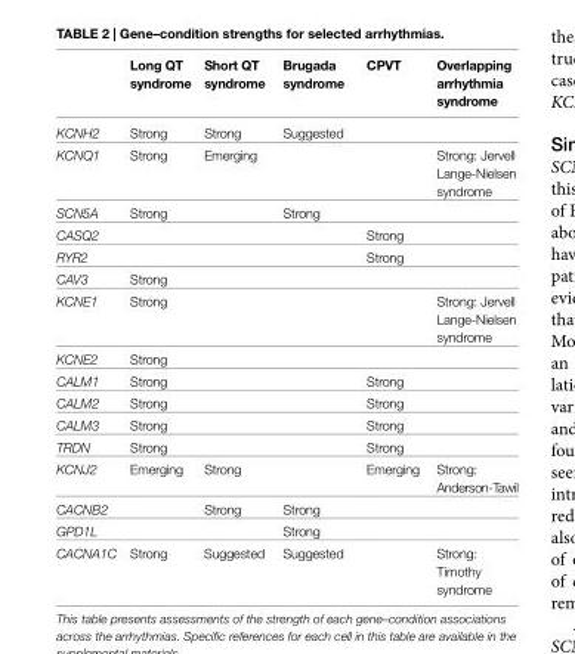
<table><thead><tr><td></td><td>long QT syndrome</td><td>short QT syndrome</td><td>Brugada syndrome</td><td>cPVT</td><td>Overlapping arrhythmia syndrome</td></tr></thead><tbody><tr><td>KCNH2</td><td>Strong</td><td>Strong</td><td>Suggested</td><td></td><td></td></tr><tr><td>KCNQ1</td><td>Strong</td><td>Emerging</td><td></td><td></td><td>Strong: Jervell Lange-Nielsen syndrome</td></tr><tr><td>SCN5A</td><td>Strong</td><td></td><td>Strong</td><td></td><td></td></tr><tr><td>CASQ2</td><td></td><td></td><td></td><td>Strong</td><td></td></tr><tr><td>RYR2</td><td></td><td></td><td></td><td>Strong</td><td></td></tr><tr><td>CAV3</td><td>Strong</td><td></td><td></td><td></td><td></td></tr><tr><td>KCNE1</td><td>Strong</td><td></td><td></td><td></td><td>Strong: Jervell Lange-Nielsen syndrome</td></tr><tr><td>KCNE2</td><td>Strong</td><td></td><td></td><td></td><td></td></tr><tr><td>CALM1</td><td>Strong</td><td></td><td></td><td>Strong</td><td></td></tr><tr><td>CALM2</td><td>Strong</td><td></td><td></td><td>Strong</td><td></td></tr><tr><td>CALM3</td><td>Strong</td><td></td><td></td><td>Strong</td><td></td></tr><tr><td>TRDN</td><td>Strong</td><td></td><td></td><td>Strong</td><td></td></tr><tr><td>KCNJ2</td><td>Emerging</td><td>Strong</td><td></td><td>Emerging</td><td>Strong: Anderson-Tawil</td></tr><tr><td>CACNB2</td><td></td><td>Strong</td><td>Strong</td><td></td><td></td></tr><tr><td>GPD1L</td><td></td><td></td><td>Strong</td><td></td><td></td></tr><tr><td>CACNA1C</td><td>Strong</td><td>Suggested</td><td>Suggested</td><td></td><td>Strong: Timothy syndrome</td></tr></tbody></table>